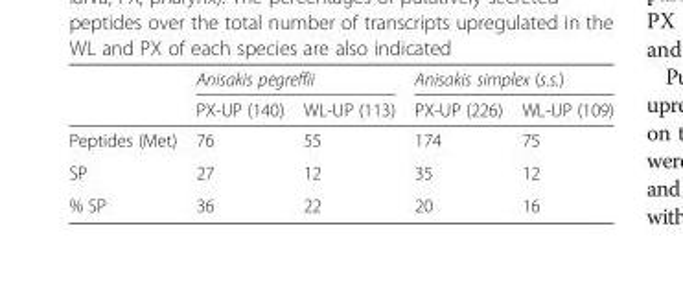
<table><thead><tr><td rowspan="2"></td><td colspan="2">Anisakis pegreffii</td><td colspan="2">Anisakis simplex (s.s.)</td></tr><tr><td>PX-UP (140)</td><td>WL-UP (113)</td><td>PX-UP (226)</td><td>WL-UP (109)</td></tr></thead><tbody><tr><td>Peptides (Met)</td><td>76</td><td>55</td><td>174</td><td>75</td></tr><tr><td>SP</td><td>27</td><td>12</td><td>35</td><td>12</td></tr><tr><td>% SP</td><td>36</td><td>22</td><td>20</td><td>16</td></tr></tbody></table>